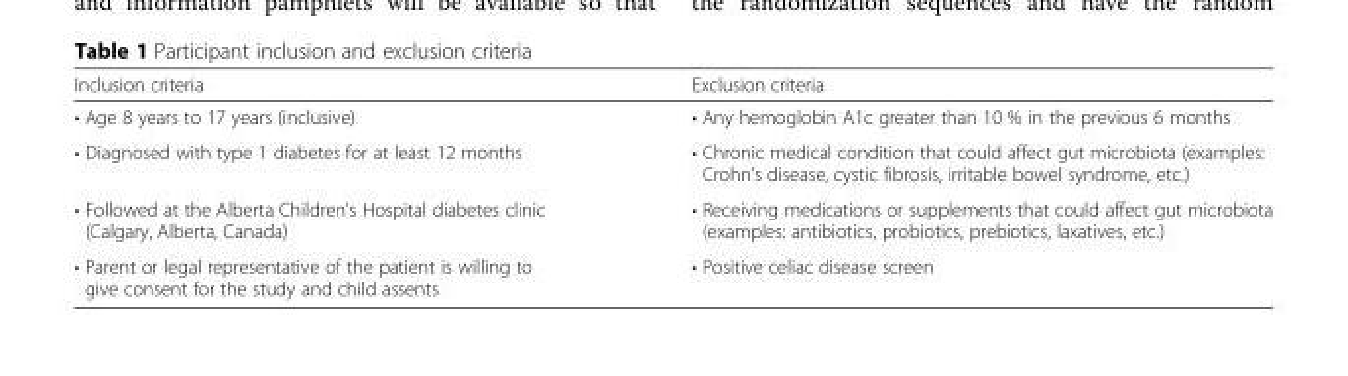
<table><thead><tr><td>Inclusion criteria</td><td>Exclusion criteria</td></tr></thead><tbody><tr><td>• Age 8 years to 17 years (inclusive)</td><td>• Any hemoglobin A1c greater than 10 % in the previous 6 months</td></tr><tr><td>• Diagnosed with type 1 diabetes for at least 12 months</td><td>• Chronic medical condition that could affect gut microbiota (examples: Crohn’s disease, cystic fibrosis, irritable bowel syndrome, etc.)</td></tr><tr><td>• Followed at the Alberta Children’s Hospital diabetes clinic (Calgary, Alberta, Canada)</td><td>• Receiving medications or supplements that could affect gut microbiota (examples: antibiotics, probiotics, prebiotics, laxatives, etc.)</td></tr><tr><td>• Parent or legal representative of the patient is willing to give consent for the study and child assents</td><td>• Positive celiac disease screen</td></tr></tbody></table>